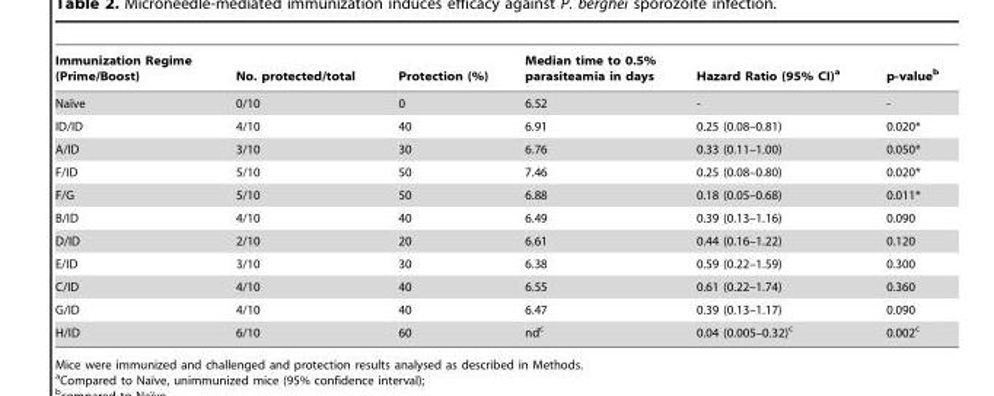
<table><thead><tr><td>Immunization Regime (Prime/Boost)</td><td>No. protected/total</td><td>Protection (%)</td><td>Median time to 0.5% parasiteamia in days</td><td>Hazard Ratio (95% CI)<sup>a</sup></td><td>p-value<sup>b</sup></td></tr></thead><tbody><tr><td>Naı¨ve</td><td>0/10</td><td>0</td><td>6.52</td><td>-</td><td>-</td></tr><tr><td>ID/ID</td><td>4/10</td><td>40</td><td>6.91</td><td>0.25 (0.08–0.81)</td><td>0.020*</td></tr><tr><td>A/ID</td><td>3/10</td><td>30</td><td>6.76</td><td>0.33 (0.11–1.00)</td><td>0.050*</td></tr><tr><td>F/ID</td><td>5/10</td><td>50</td><td>7.46</td><td>0.25 (0.08–0.80)</td><td>0.020*</td></tr><tr><td>F/G</td><td>5/10</td><td>50</td><td>6.88</td><td>0.18 (0.05–0.68)</td><td>0.011*</td></tr><tr><td>B/ID</td><td>4/10</td><td>40</td><td>6.49</td><td>0.39 (0.13–1.16)</td><td>0.090</td></tr><tr><td>D/ID</td><td>2/10</td><td>20</td><td>6.61</td><td>0.44 (0.16–1.22)</td><td>0.120</td></tr><tr><td>E/ID</td><td>3/10</td><td>30</td><td>6.38</td><td>0.59 (0.22–1.59)</td><td>0.300</td></tr><tr><td>C/ID</td><td>4/10</td><td>40</td><td>6.55</td><td>0.61 (0.22–1.74)</td><td>0.360</td></tr><tr><td>G/ID</td><td>4/10</td><td>40</td><td>6.47</td><td>0.39 (0.13–1.17)</td><td>0.090</td></tr><tr><td>H/ID</td><td>6/10</td><td>60</td><td>nd<sup>c</sup></td><td>0.04 (0.005–0.32)<sup>c</sup></td><td>0.002<sup>c</sup></td></tr></tbody></table>